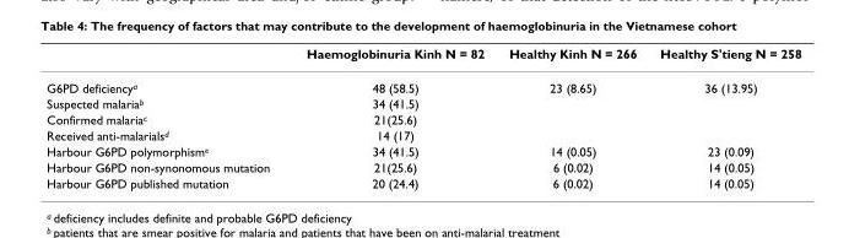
<table><thead><tr><td></td><td>Haemoglobinuria Kinh N = 82</td><td>Healthy Kinh N = 266</td><td>Healthy S&#x27;tieng N = 258</td></tr></thead><tbody><tr><td>G6PD deficiency<sup>a</sup></td><td>48 (58.5)</td><td>23 (8.65)</td><td>36 (13.95)</td></tr><tr><td>Suspected malaria<sup>b</sup></td><td>34 (41.5)</td><td></td><td></td></tr><tr><td>Confirmed malaria<sup>c</sup></td><td>21(25.6)</td><td></td><td></td></tr><tr><td>Received anti-malarials<sup>d</sup></td><td>14 (17)</td><td></td><td></td></tr><tr><td>Harbour G6PD polymorphism<sup>e</sup></td><td>34 (41.5)</td><td>14 (0.05)</td><td>23 (0.09)</td></tr><tr><td>Harbour G6PD non-synonomous mutation</td><td>21(25.6)</td><td>6 (0.02)</td><td>14 (0.05)</td></tr><tr><td>Harbour G6PD published mutation</td><td>20 (24.4)</td><td>6 (0.02)</td><td>14 (0.05)</td></tr></tbody></table>